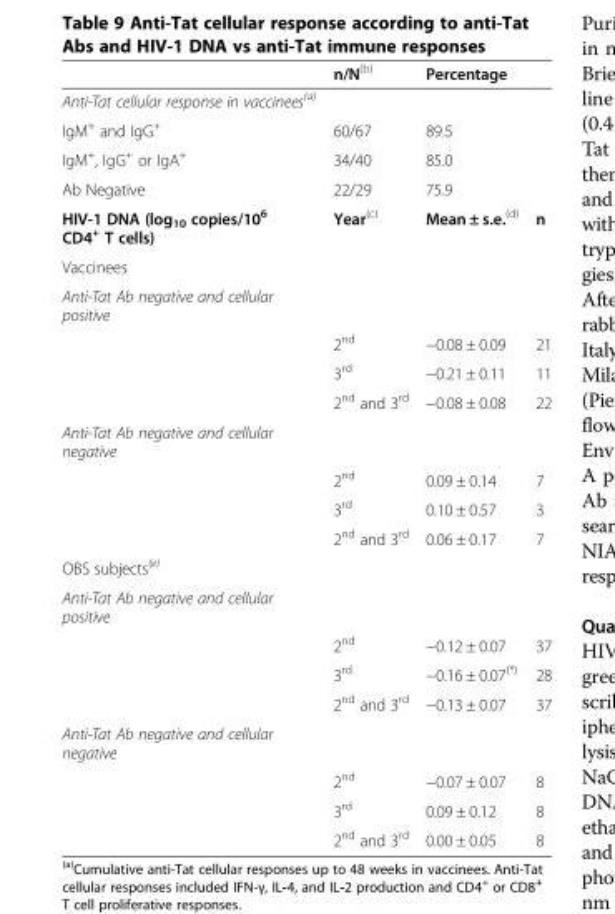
<table><thead><tr><td></td><td>n/N<sup>(b)</sup></td><td>Percentage</td><td></td></tr></thead><tbody><tr><td colspan="4">Anti-Tat cellular response in vaccinees<sup>(a)</sup></td></tr><tr><td>IgM<sup>+</sup> and IgG<sup>+</sup></td><td>60/67</td><td>89.5</td><td></td></tr><tr><td>IgM<sup>+</sup>, IgG<sup>+</sup> or IgA<sup>+</sup></td><td>34/40</td><td>85.0</td><td></td></tr><tr><td>Ab Negative</td><td>22/29</td><td>75.9</td><td></td></tr><tr><td>HIV-1 DNA (log<sub>10</sub> copies/10<sup>6</sup> CD4<sup>+</sup> T cells)</td><td>Year<sup>(c)</sup></td><td>Mean ± s.e.<sup>(d)</sup></td><td>n</td></tr><tr><td colspan="4">Vaccinees</td></tr><tr><td colspan="4">Anti-Tat Ab negative and cellular positive</td></tr><tr><td></td><td>2<sup>nd</sup></td><td>−0.08 ± 0.09</td><td>21</td></tr><tr><td></td><td>3<sup>rd</sup></td><td>−0.21 ± 0.11</td><td>11</td></tr><tr><td></td><td>2<sup>nd</sup> and 3<sup>rd</sup></td><td>−0.08 ± 0.08</td><td>22</td></tr><tr><td colspan="4">Anti-Tat Ab negative and cellular negative</td></tr><tr><td></td><td>2<sup>nd</sup></td><td>0.09 ± 0.14</td><td>7</td></tr><tr><td></td><td>3<sup>rd</sup></td><td>0.10 ± 0.57</td><td>3</td></tr><tr><td></td><td>2<sup>nd</sup> and 3<sup>rd</sup></td><td>0.06 ± 0.17</td><td>7</td></tr><tr><td>OBS subjects<sup>(e)</sup></td><td rowspan="2"></td><td rowspan="2"></td><td rowspan="2"></td></tr><tr><td rowspan="4">Anti-Tat Ab negative and cellular positive</td></tr><tr><td>2<sup>nd</sup></td><td>−0.12 ± 0.07</td><td>37</td></tr><tr><td>3<sup>rd</sup></td><td>−0.16 ± 0.07<sup>(*)</sup></td><td>28</td></tr><tr><td>2<sup>nd</sup> and 3<sup>rd</sup></td><td>−0.13 ± 0.07</td><td>37</td></tr><tr><td colspan="4">Anti-Tat Ab negative and cellular negative</td></tr><tr><td></td><td>2<sup>nd</sup></td><td>−0.07 ± 0.07</td><td>8</td></tr><tr><td></td><td>3<sup>rd</sup></td><td>0.09 ± 0.12</td><td>8</td></tr><tr><td></td><td>2<sup>nd</sup> and 3<sup>rd</sup></td><td>0.00 ± 0.05</td><td>8</td></tr></tbody></table>